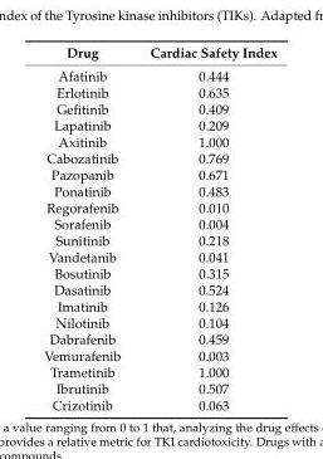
<table><thead><tr><td>Drug</td><td>Cardiac Safety Index</td></tr></thead><tbody><tr><td>Afatinib</td><td>0.444</td></tr><tr><td>Erlotinib</td><td>0.635</td></tr><tr><td>Gefitinib</td><td>0.409</td></tr><tr><td>Lapatinib</td><td>0.209</td></tr><tr><td>Axitinib</td><td>1.000</td></tr><tr><td>Cabozatinib</td><td>0.769</td></tr><tr><td>Pazopanib</td><td>0.671</td></tr><tr><td>Ponatinib</td><td>0.483</td></tr><tr><td>Regorafenib</td><td>0.010</td></tr><tr><td>Sorafenib</td><td>0.004</td></tr><tr><td>Sunitinib</td><td>0.218</td></tr><tr><td>Vandetanib</td><td>0.041</td></tr><tr><td>Bosutinib</td><td>0.315</td></tr><tr><td>Dasatinib</td><td>0.524</td></tr><tr><td>Imatinib</td><td>0.126</td></tr><tr><td>Nilotinib</td><td>0.104</td></tr><tr><td>Dabrafenib</td><td>0.459</td></tr><tr><td>Vemurafenib</td><td>0.003</td></tr><tr><td>Trametinib</td><td>1.000</td></tr><tr><td>Ibrutinib</td><td>0.507</td></tr><tr><td>Crizotinib</td><td>0.063</td></tr></tbody></table>